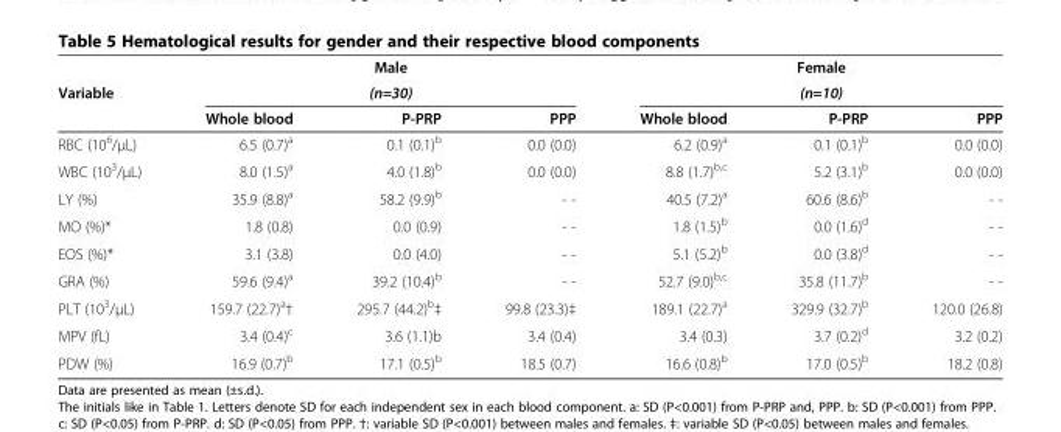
<table><thead><tr><td rowspan="3">Variable</td><td rowspan="2" colspan="3">Male (n=30)</td><td rowspan="2" colspan="3">Female (n=10)</td></tr><tr></tr><tr><td>Whole blood</td><td>P-PRP</td><td>PPP</td><td>Whole blood</td><td>P-PRP</td><td>PPP</td></tr></thead><tbody><tr><td>RBC (10<sup>6</sup>/μL)</td><td>6.5 (0.7)<sup>a</sup></td><td>0.1 (0.1)<sup>b</sup></td><td>0.0 (0.0)</td><td>6.2 (0.9)<sup>a</sup></td><td>0.1 (0.1)<sup>b</sup></td><td>0.0 (0.0)</td></tr><tr><td>WBC (10<sup>3</sup>/μL)</td><td>8.0 (1.5)<sup>a</sup></td><td>4.0 (1.8)<sup>b</sup></td><td>0.0 (0.0)</td><td>8.8 (1.7)<sup>b,c</sup></td><td>5.2 (3.1)<sup>b</sup></td><td>0.0 (0.0)</td></tr><tr><td>LY (%)</td><td>35.9 (8.8)<sup>a</sup></td><td>58.2 (9.9)<sup>b</sup></td><td>- -</td><td>40.5 (7.2)<sup>a</sup></td><td>60.6 (8.6)<sup>b</sup></td><td>- -</td></tr><tr><td>MO (%)*</td><td>1.8 (0.8)</td><td>0.0 (0.9)</td><td>- -</td><td>1.8 (1.5)<sup>b</sup></td><td>0.0 (1.6)<sup>d</sup></td><td>- -</td></tr><tr><td>EOS (%)*</td><td>3.1 (3.8)</td><td>0.0 (4.0)</td><td>- -</td><td>5.1 (5.2)<sup>b</sup></td><td>0.0 (3.8)<sup>d</sup></td><td>- -</td></tr><tr><td>GRA (%)</td><td>59.6 (9.4)<sup>a</sup></td><td>39.2 (10.4)<sup>b</sup></td><td>- -</td><td>52.7 (9.0)<sup>b,c</sup></td><td>35.8 (11.7)<sup>b</sup></td><td>- -</td></tr><tr><td>PLT (10<sup>3</sup>/μL)</td><td>159.7 (22.7)<sup>a</sup>†</td><td>295.7 (44.2)<sup>b</sup>‡</td><td>99.8 (23.3)‡</td><td>189.1 (22.7)<sup>a</sup></td><td>329.9 (32.7)<sup>b</sup></td><td>120.0 (26.8)</td></tr><tr><td>MPV (fL)</td><td>3.4 (0.4)<sup>c</sup></td><td>3.6 (1.1)b</td><td>3.4 (0.4)</td><td>3.4 (0.3)</td><td>3.7 (0.2)<sup>d</sup></td><td>3.2 (0.2)</td></tr><tr><td>PDW (%)</td><td>16.9 (0.7)<sup>b</sup></td><td>17.1 (0.5)<sup>b</sup></td><td>18.5 (0.7)</td><td>16.6 (0.8)<sup>b</sup></td><td>17.0 (0.5)<sup>b</sup></td><td>18.2 (0.8)</td></tr></tbody></table>